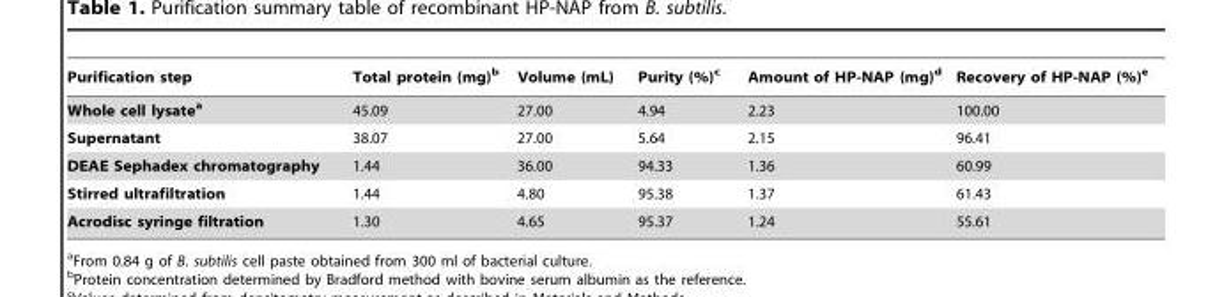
<table><thead><tr><td>Purification step</td><td>Total protein (mg)<sup>b</sup></td><td>Volume (mL)</td><td>Purity (%)<sup>c</sup></td><td>Amount of HP-NAP (mg)<sup>d</sup></td><td>Recovery of HP-NAP (%)<sup>e</sup></td></tr></thead><tbody><tr><td>Whole cell lysatea</td><td>45.09</td><td>27.00</td><td>4.94</td><td>2.23</td><td>100.00</td></tr><tr><td>Supernatant</td><td>38.07</td><td>27.00</td><td>5.64</td><td>2.15</td><td>96.41</td></tr><tr><td>DEAE Sephadex chromatography</td><td>1.44</td><td>36.00</td><td>94.33</td><td>1.36</td><td>60.99</td></tr><tr><td>Stirred ultrafiltration</td><td>1.44</td><td>4.80</td><td>95.38</td><td>1.37</td><td>61.43</td></tr><tr><td>Acrodisc syringe filtration</td><td>1.30</td><td>4.65</td><td>95.37</td><td>1.24</td><td>55.61</td></tr></tbody></table>